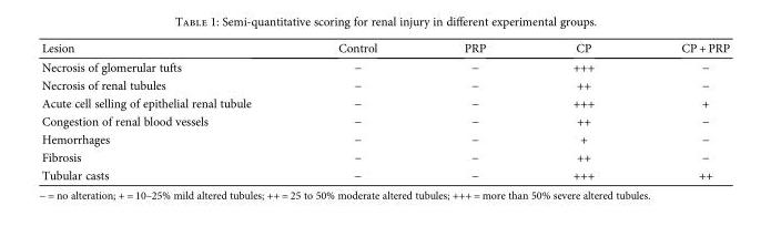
<table><thead><tr><td>Lesion</td><td>Control</td><td>PRP</td><td>CP</td><td>CP + PRP</td></tr></thead><tbody><tr><td>Necrosis of glomerular tufts</td><td>−</td><td>−</td><td>+++</td><td>−</td></tr><tr><td>Necrosis of renal tubules</td><td>−</td><td>−</td><td>++</td><td>−</td></tr><tr><td>Acute cell selling of epithelial renal tubule</td><td>−</td><td>−</td><td>+++</td><td>+</td></tr><tr><td>Congestion of renal blood vessels</td><td>−</td><td>−</td><td>++</td><td>−</td></tr><tr><td>Hemorrhages</td><td>−</td><td>−</td><td>+</td><td>−</td></tr><tr><td>Fibrosis</td><td>−</td><td>−</td><td>++</td><td>−</td></tr><tr><td>Tubular casts</td><td>−</td><td>−</td><td>+++</td><td>++</td></tr></tbody></table>